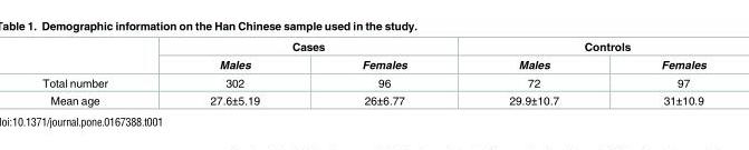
<table><thead><tr><td rowspan="2"></td><td colspan="2">Cases</td><td colspan="2">Controls</td></tr><tr><td>Males</td><td>Females</td><td>Males</td><td>Females</td></tr></thead><tbody><tr><td>Total number</td><td>302</td><td>96</td><td>72</td><td>97</td></tr><tr><td>Mean age</td><td>27.6±5.19</td><td>26±6.77</td><td>29.9±10.7</td><td>31±10.9</td></tr></tbody></table>